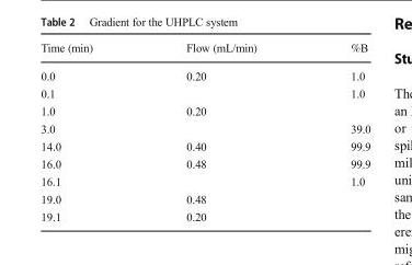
<table><thead><tr><td>Time (min)</td><td>Flow (mL/min)</td><td>%B</td></tr></thead><tbody><tr><td>0.0</td><td>0.20</td><td>1.0</td></tr><tr><td>0.1</td><td></td><td>1.0</td></tr><tr><td>1.0</td><td>0.20</td><td></td></tr><tr><td>3.0</td><td></td><td>39.0</td></tr><tr><td>14.0</td><td>0.40</td><td>99.9</td></tr><tr><td>16.0</td><td>0.48</td><td>99.9</td></tr><tr><td>16.1</td><td></td><td>1.0</td></tr><tr><td>19.0</td><td>0.48</td><td></td></tr><tr><td>19.1</td><td>0.20</td><td></td></tr></tbody></table>